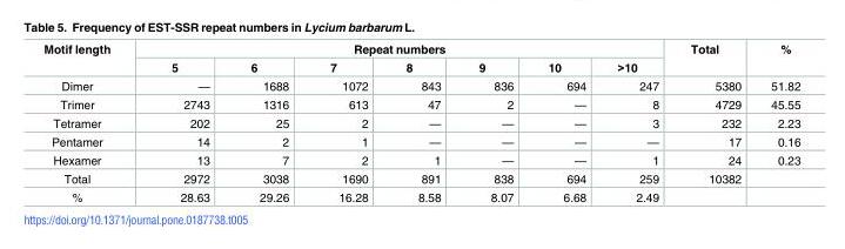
<table><thead><tr><td rowspan="2">Motif length</td><td colspan="7">Repeat numbers</td><td rowspan="2">Total</td><td rowspan="2">%</td></tr><tr><td>5</td><td>6</td><td>7</td><td>8</td><td>9</td><td>10</td><td>&gt;10</td></tr></thead><tbody><tr><td>Dimer</td><td>—</td><td>1688</td><td>1072</td><td>843</td><td>836</td><td>694</td><td>247</td><td>5380</td><td>51.82</td></tr><tr><td>Trimer</td><td>2743</td><td>1316</td><td>613</td><td>47</td><td>2</td><td>—</td><td>8</td><td>4729</td><td>45.55</td></tr><tr><td>Tetramer</td><td>202</td><td>25</td><td>2</td><td>—</td><td>—</td><td>—</td><td>3</td><td>232</td><td>2.23</td></tr><tr><td>Pentamer</td><td>14</td><td>2</td><td>1</td><td>—</td><td>—</td><td>—</td><td>—</td><td>17</td><td>0.16</td></tr><tr><td>Hexamer</td><td>13</td><td>7</td><td>2</td><td>1</td><td>—</td><td>—</td><td>1</td><td>24</td><td>0.23</td></tr><tr><td>Total</td><td>2972</td><td>3038</td><td>1690</td><td>891</td><td>838</td><td>694</td><td>259</td><td>10382</td><td></td></tr><tr><td>%</td><td>28.63</td><td>29.26</td><td>16.28</td><td>8.58</td><td>8.07</td><td>6.68</td><td>2.49</td><td></td><td></td></tr></tbody></table>